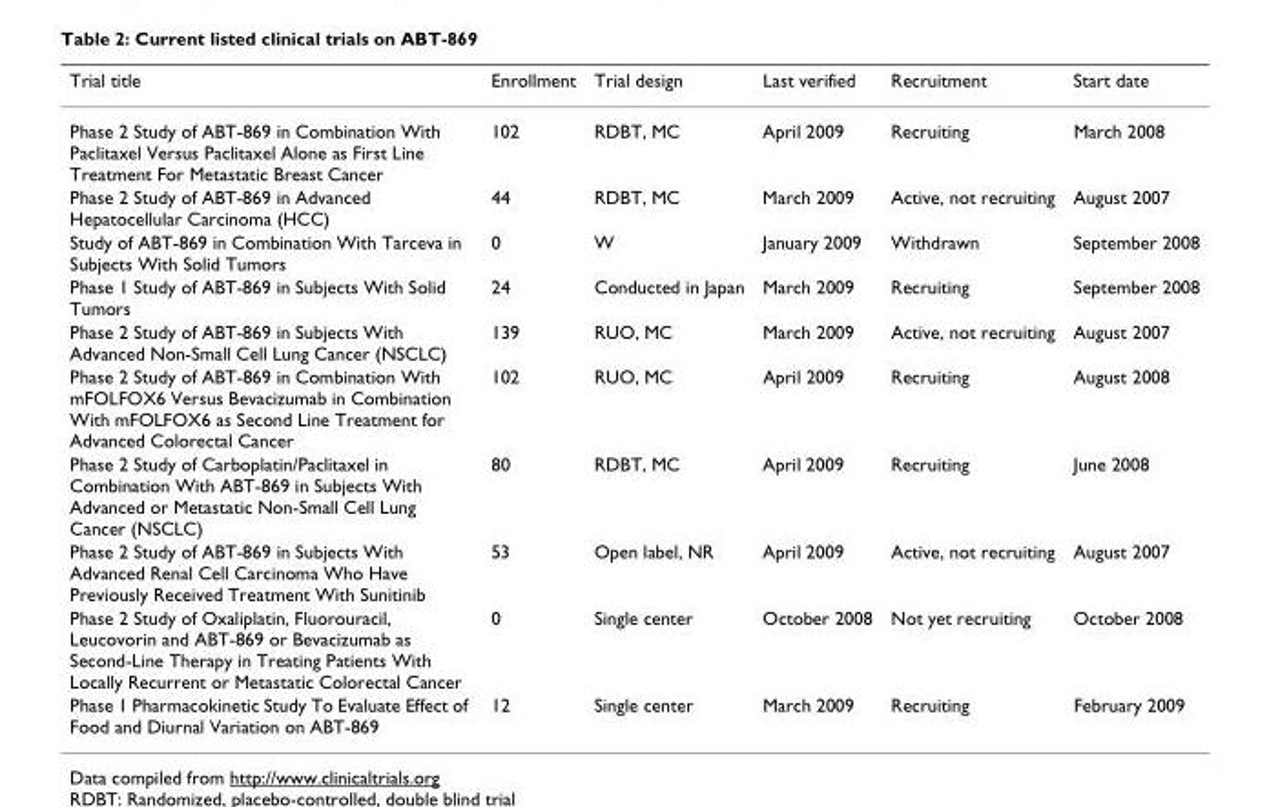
<table><thead><tr><td>Trial title</td><td>Enrollment</td><td>Trial design</td><td>Last verified</td><td>Recruitment</td><td>Start date</td></tr></thead><tbody><tr><td>Phase 2 Study of ABT-869 in Combination With Paclitaxel Versus Paclitaxel Alone as First Line Treatment For Metastatic Breast Cancer</td><td>102</td><td>RDBT, MC</td><td>April 2009</td><td>Recruiting</td><td>March 2008</td></tr><tr><td>Phase 2 Study of ABT-869 in Advanced Hepatocellular Carcinoma (HCC)</td><td>44</td><td>RDBT, MC</td><td>March 2009</td><td>Active, not recruiting</td><td>August 2007</td></tr><tr><td>Study of ABT-869 in Combination With Tarceva in Subjects With Solid Tumors</td><td>0</td><td>W</td><td>January 2009</td><td>Withdrawn</td><td>September 2008</td></tr><tr><td>Phase 1 Study of ABT-869 in Subjects With Solid Tumors</td><td>24</td><td>Conducted in Japan</td><td>March 2009</td><td>Recruiting</td><td>September 2008</td></tr><tr><td>Phase 2 Study of ABT-869 in Subjects With Advanced Non-Small Cell Lung Cancer (NSCLC)</td><td>139</td><td>RUO, MC</td><td>March 2009</td><td>Active, not recruiting</td><td>August 2007</td></tr><tr><td>Phase 2 Study of ABT-869 in Combination With mFOLFOX6 Versus Bevacizumab in Combination With mFOLFOX6 as Second Line Treatment for Advanced Colorectal Cancer</td><td>102</td><td>RUO, MC</td><td>April 2009</td><td>Recruiting</td><td>August 2008</td></tr><tr><td>Phase 2 Study of Carboplatin/Paclitaxel in Combination With ABT-869 in Subjects With Advanced or Metastatic Non-Small Cell Lung Cancer (NSCLC)</td><td>80</td><td>RDBT, MC</td><td>April 2009</td><td>Recruiting</td><td>June 2008</td></tr><tr><td>Phase 2 Study of ABT-869 in Subjects With Advanced Renal Cell Carcinoma Who Have Previously Received Treatment With Sunitinib</td><td>53</td><td>Open label, NR</td><td>April 2009</td><td>Active, not recruiting</td><td>August 2007</td></tr><tr><td>Phase 2 Study of Oxaliplatin, Fluorouracil, Leucovorin and ABT-869 or Bevacizumab as Second-Line Therapy in Treating Patients With Locally Recurrent or Metastatic Colorectal Cancer</td><td>0</td><td>Single center</td><td>October 2008</td><td>Not yet recruiting</td><td>October 2008</td></tr><tr><td>Phase 1 Pharmacokinetic Study To Evaluate Effect of Food and Diurnal Variation on ABT-869</td><td>12</td><td>Single center</td><td>March 2009</td><td>Recruiting</td><td>February 2009</td></tr></tbody></table>